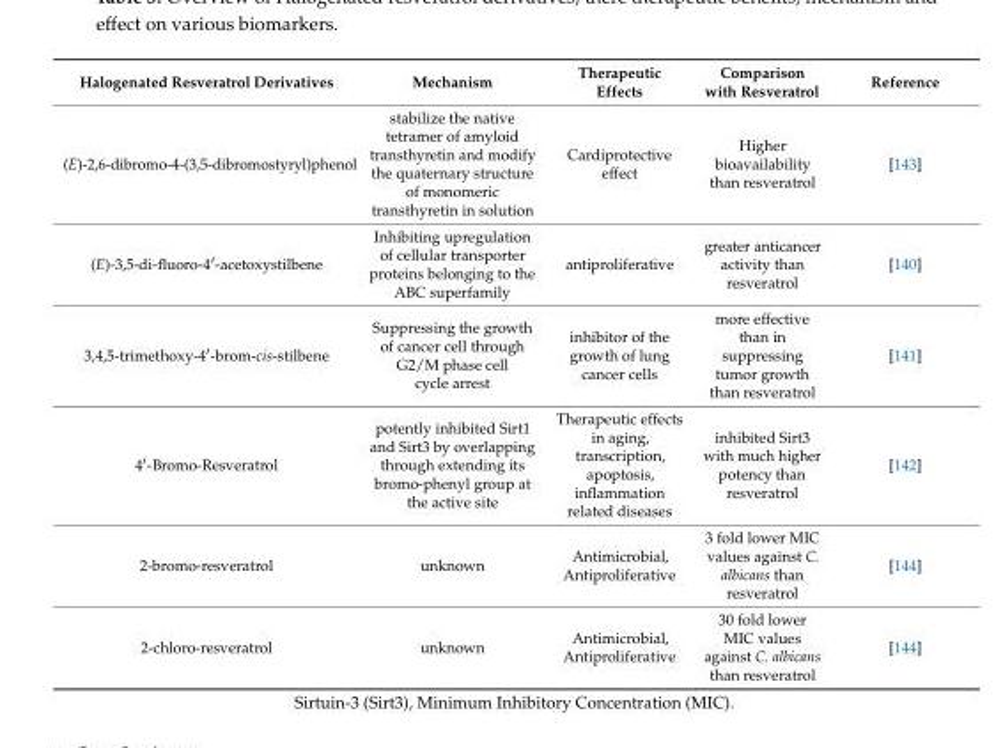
<table><thead><tr><td>Halogenated Resveratrol Derivatives</td><td>Mechanism</td><td>Therapeutic Effects</td><td>Comparison with Resveratrol</td><td>Reference</td></tr></thead><tbody><tr><td>(E)-2,6-dibromo-4-(3,5-dibromostyryl)phenol</td><td>stabilize the native tetramer of amyloid transthyretin and modify the quaternary structure of monomeric transthyretin in solution</td><td>Cardiprotective effect</td><td>Higher bioavailability than resveratrol</td><td>[143]</td></tr><tr><td>(E)-3,5-di-fluoro-4′-acetoxystilbene</td><td>Inhibiting upregulation of cellular transporter proteins belonging to the ABC superfamily</td><td>antiproliferative</td><td>greater anticancer activity than resveratrol</td><td>[140]</td></tr><tr><td>3,4,5-trimethoxy-4′-brom-cis-stilbene</td><td>Suppressing the growth of cancer cell through G2/M phase cell cycle arrest</td><td>inhibitor of the growth of lung cancer cells</td><td>more effective than in suppressing tumor growth than resveratrol</td><td>[141]</td></tr><tr><td>4′-Bromo-Resveratrol</td><td>potently inhibited Sirt1 and Sirt3 by overlapping through extending its bromo-phenyl group at the active site</td><td>Therapeutic effects in aging, transcription, apoptosis, inflammation related diseases</td><td>inhibited Sirt3 with much higher potency than resveratrol</td><td>[142]</td></tr><tr><td>2-bromo-resveratrol</td><td>unknown</td><td>Antimicrobial, Antiproliferative</td><td>3 fold lower MIC values against C. albicans than resveratrol</td><td>[144]</td></tr><tr><td>2-chloro-resveratrol</td><td>unknown</td><td>Antimicrobial, Antiproliferative</td><td>30 fold lower MIC values against C. albicans than resveratrol</td><td>[144]</td></tr></tbody></table>